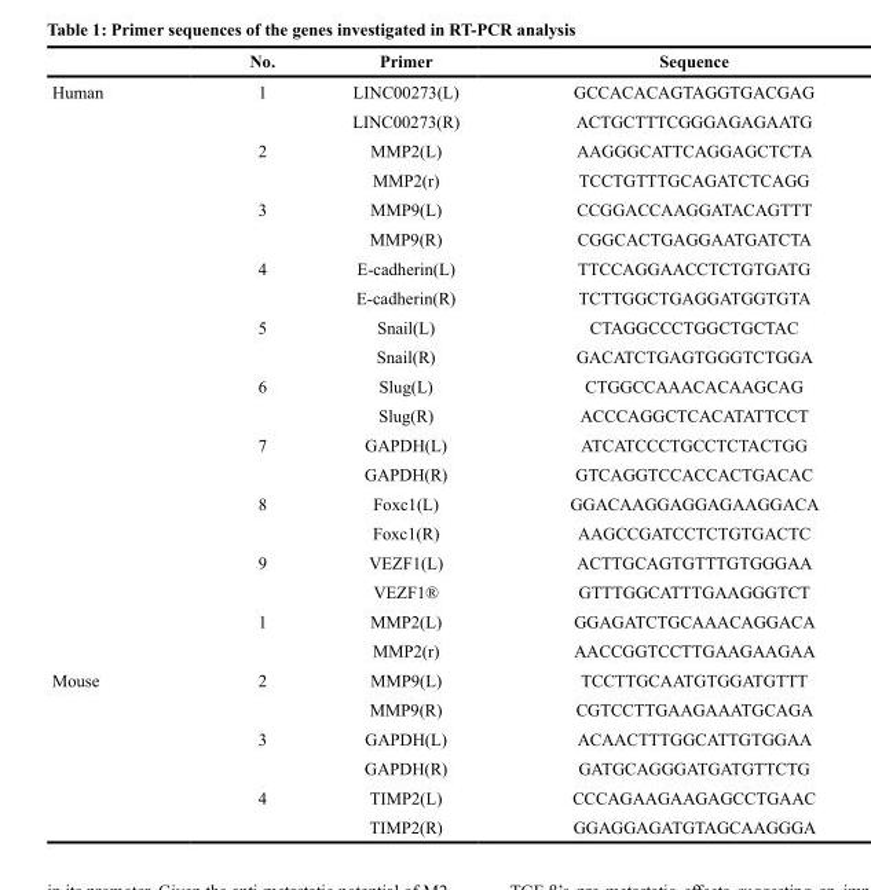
<table><thead><tr><td></td><td>No.</td><td>Primer</td><td>Sequence</td></tr></thead><tbody><tr><td rowspan="20">Human</td><td>1</td><td>LINC00273(L)</td><td>GCCACACAGTAGGTGACGAG</td></tr><tr><td></td><td>LINC00273(R)</td><td>ACTGCTTTCGGGAGAGAATG</td></tr><tr><td>2</td><td>MMP2(L)</td><td>AAGGGCATTCAGGAGCTCTA</td></tr><tr><td></td><td>MMP2(r)</td><td>TCCTGTTTGCAGATCTCAGG</td></tr><tr><td>3</td><td>MMP9(L)</td><td>CCGGACCAAGGATACAGTTT</td></tr><tr><td></td><td>MMP9(R)</td><td>CGGCACTGAGGAATGATCTA</td></tr><tr><td>4</td><td>E-cadherin(L)</td><td>TTCCAGGAACCTCTGTGATG</td></tr><tr><td></td><td>E-cadherin(R)</td><td>TCTTGGCTGAGGATGGTGTA</td></tr><tr><td>5</td><td>Snail(L)</td><td>CTAGGCCCTGGCTGCTAC</td></tr><tr><td></td><td>Snail(R)</td><td>GACATCTGAGTGGGTCTGGA</td></tr><tr><td>6</td><td>Slug(L)</td><td>CTGGCCAAACACAAGCAG</td></tr><tr><td></td><td>Slug(R)</td><td>ACCCAGGCTCACATATTCCT</td></tr><tr><td>7</td><td>GAPDH(L)</td><td>ATCATCCCTGCCTCTACTGG</td></tr><tr><td></td><td>GAPDH(R)</td><td>GTCAGGTCCACCACTGACAC</td></tr><tr><td>8</td><td>Foxc1(L)</td><td>GGACAAGGAGGAGAAGGACA</td></tr><tr><td></td><td>Foxc1(R)</td><td>AAGCCGATCCTCTGTGACTC</td></tr><tr><td>9</td><td>VEZF1(L)</td><td>ACTTGCAGTGTTTGTGGGAA</td></tr><tr><td></td><td>VEZF1®</td><td>GTTTGGCATTTGAAGGGTCT</td></tr><tr><td>1</td><td>MMP2(L)</td><td>GGAGATCTGCAAACAGGACA</td></tr><tr><td></td><td>MMP2(r)</td><td>AACCGGTCCTTGAAGAAGAA</td></tr><tr><td rowspan="6">Mouse</td><td>2</td><td>MMP9(L)</td><td>TCCTTGCAATGTGGATGTTT</td></tr><tr><td></td><td>MMP9(R)</td><td>CGTCCTTGAAGAAATGCAGA</td></tr><tr><td>3</td><td>GAPDH(L)</td><td>ACAACTTTGGCATTGTGGAA</td></tr><tr><td></td><td>GAPDH(R)</td><td>GATGCAGGGATGATGTTCTG</td></tr><tr><td>4</td><td>TIMP2(L)</td><td>CCCAGAAGAAGAGCCTGAAC</td></tr><tr><td></td><td>TIMP2(R)</td><td>GGAGGAGATGTAGCAAGGGA</td></tr></tbody></table>